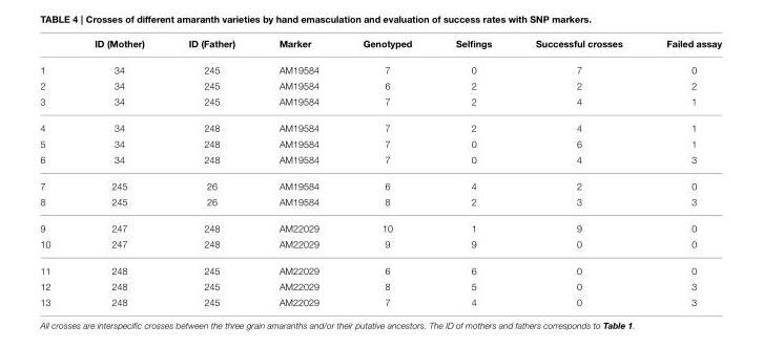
<table><thead><tr><td></td><td>ID (Mother)</td><td>ID (Father)</td><td>Marker</td><td>Genotyped</td><td>Selfings</td><td>Successful crosses</td><td>Failed assay</td></tr></thead><tbody><tr><td>1</td><td>34</td><td>245</td><td>AM19584</td><td>7</td><td>0</td><td>7</td><td>0</td></tr><tr><td>2</td><td>34</td><td>245</td><td>AM19584</td><td>6</td><td>2</td><td>2</td><td>2</td></tr><tr><td>3</td><td>34</td><td>245</td><td>AM19584</td><td>7</td><td>2</td><td>4</td><td>1</td></tr><tr><td>4</td><td>34</td><td>248</td><td>AM19584</td><td>7</td><td>2</td><td>4</td><td>1</td></tr><tr><td>5</td><td>34</td><td>248</td><td>AM19584</td><td>7</td><td>0</td><td>6</td><td>1</td></tr><tr><td>6</td><td>34</td><td>248</td><td>AM19584</td><td>7</td><td>0</td><td>4</td><td>3</td></tr><tr><td>7</td><td>245</td><td>26</td><td>AM19584</td><td>6</td><td>4</td><td>2</td><td>0</td></tr><tr><td>8</td><td>245</td><td>26</td><td>AM19584</td><td>8</td><td>2</td><td>3</td><td>3</td></tr><tr><td>9</td><td>247</td><td>248</td><td>AM22029</td><td>10</td><td>1</td><td>9</td><td>0</td></tr><tr><td>10</td><td>247</td><td>248</td><td>AM22029</td><td>9</td><td>9</td><td>0</td><td>0</td></tr><tr><td>11</td><td>248</td><td>245</td><td>AM22029</td><td>6</td><td>6</td><td>0</td><td>0</td></tr><tr><td>12</td><td>248</td><td>245</td><td>AM22029</td><td>8</td><td>5</td><td>0</td><td>3</td></tr><tr><td>13</td><td>248</td><td>245</td><td>AM22029</td><td>7</td><td>4</td><td>0</td><td>3</td></tr></tbody></table>